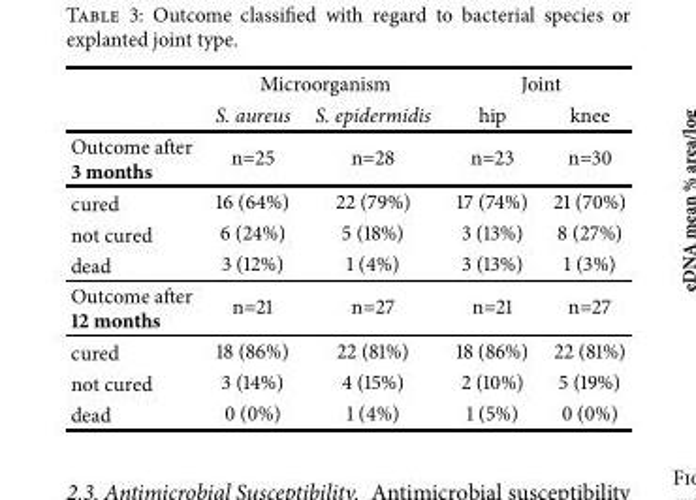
<table><thead><tr><td rowspan="2"></td><td colspan="2">Microorganism</td><td colspan="2">Joint</td></tr><tr><td>S. aureus</td><td>S. epidermidis</td><td>hip</td><td>knee</td></tr></thead><tbody><tr><td>Outcome after 3 months</td><td>n=25</td><td>n=28</td><td>n=23</td><td>n=30</td></tr><tr><td>cured</td><td>16 (64%)</td><td>22 (79%)</td><td>17 (74%)</td><td>21 (70%)</td></tr><tr><td>not cured</td><td>6 (24%)</td><td>5 (18%)</td><td>3 (13%)</td><td>8 (27%)</td></tr><tr><td>dead</td><td>3 (12%)</td><td>1 (4%)</td><td>3 (13%)</td><td>1 (3%)</td></tr><tr><td>Outcome after 12 months</td><td>n=21</td><td>n=27</td><td>n=21</td><td>n=27</td></tr><tr><td>cured</td><td>18 (86%)</td><td>22 (81%)</td><td>18 (86%)</td><td>22 (81%)</td></tr><tr><td>not cured</td><td>3 (14%)</td><td>4 (15%)</td><td>2 (10%)</td><td>5 (19%)</td></tr><tr><td>dead</td><td>0 (0%)</td><td>1 (4%)</td><td>1 (5%)</td><td>0 (0%)</td></tr></tbody></table>